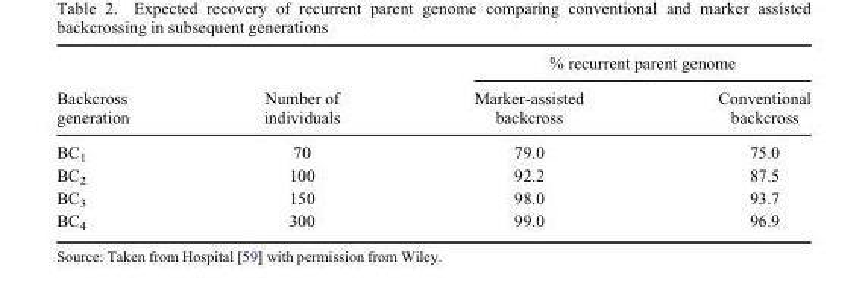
<table><thead><tr><td rowspan="2">Backcross generation</td><td rowspan="2">Number of individuals</td><td colspan="2">% recurrent parent genome</td></tr><tr><td>Marker-assisted backcross</td><td>Conventional backcross</td></tr></thead><tbody><tr><td>BC<sub>1</sub></td><td>70</td><td>79.0</td><td>75.0</td></tr><tr><td>BC<sub>2</sub></td><td>100</td><td>92.2</td><td>87.5</td></tr><tr><td>BC<sub>3</sub></td><td>150</td><td>98.0</td><td>93.7</td></tr><tr><td>BC<sub>4</sub></td><td>300</td><td>99.0</td><td>96.9</td></tr></tbody></table>